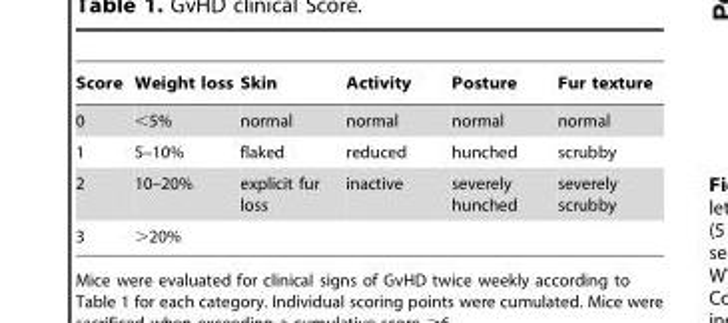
<table><thead><tr><td>Score</td><td>Weight loss</td><td>Skin</td><td>Activity</td><td>Posture</td><td>Fur texture</td></tr></thead><tbody><tr><td>0</td><td>&lt;5%</td><td>normal</td><td>normal</td><td>normal</td><td>normal</td></tr><tr><td>1</td><td>5–10%</td><td>flaked</td><td>reduced</td><td>hunched</td><td>scrubby</td></tr><tr><td>2</td><td>10–20%</td><td>explicit fur loss</td><td>inactive</td><td>severely hunched</td><td>severely scrubby</td></tr><tr><td>3</td><td>&gt;20%</td><td></td><td></td><td></td><td></td></tr></tbody></table>